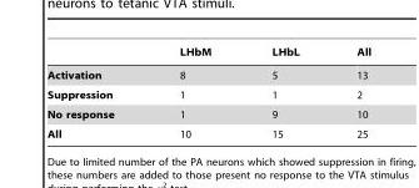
<table><thead><tr><td></td><td>LHbM</td><td>LHbL</td><td>All</td></tr></thead><tbody><tr><td>Activation</td><td>8</td><td>5</td><td>13</td></tr><tr><td>Suppression</td><td>1</td><td>1</td><td>2</td></tr><tr><td>No response</td><td>1</td><td>9</td><td>10</td></tr><tr><td>All</td><td>10</td><td>15</td><td>25</td></tr></tbody></table>